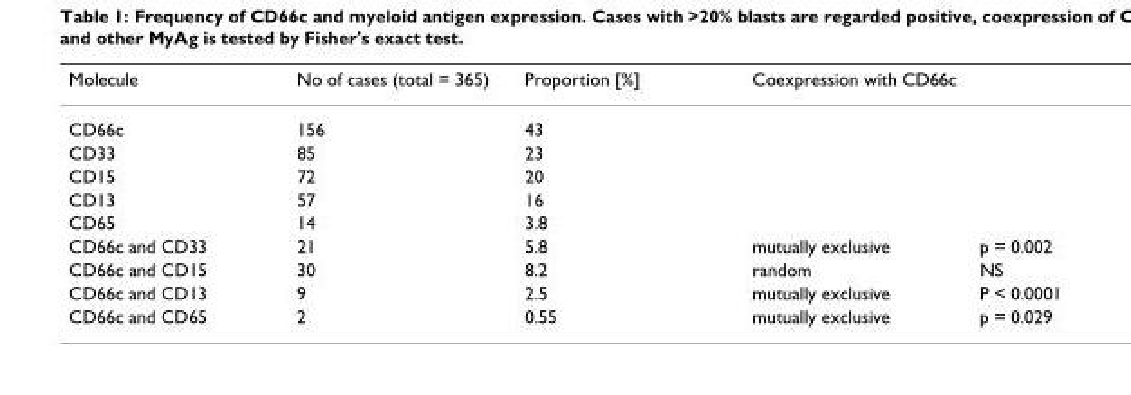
<table><thead><tr><td rowspan="2">Molecule CD66c</td><td rowspan="2">No of cases (total = 365) 156</td><td rowspan="2">Proportion [%] 43</td><td colspan="2">Coexpression with CD66c</td></tr><tr><td></td><td></td></tr></thead><tbody><tr><td>CD33</td><td>85</td><td>23</td><td></td><td></td></tr><tr><td>CD15</td><td>72</td><td>20</td><td></td><td></td></tr><tr><td>CD13</td><td>57</td><td>16</td><td></td><td></td></tr><tr><td>CD65</td><td>14</td><td>3.8</td><td></td><td></td></tr><tr><td>CD66c and CD33</td><td>21</td><td>5.8</td><td>mutually exclusive</td><td>p = 0.002</td></tr><tr><td>CD66c and CD15</td><td>30</td><td>8.2</td><td>random</td><td>NS</td></tr><tr><td>CD66c and CD13</td><td>9</td><td>2.5</td><td>mutually exclusive</td><td>P &lt; 0.0001</td></tr><tr><td>CD66c and CD65</td><td>2</td><td>0.55</td><td>mutually exclusive</td><td>p = 0.029</td></tr></tbody></table>